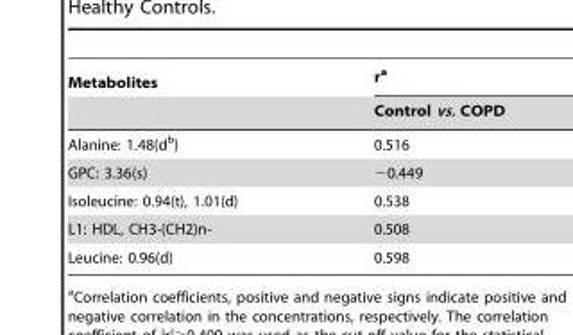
<table><thead><tr><td rowspan="2">Metabolites</td><td rowspan="2">r<sup>a</sup> Control vs. COPD</td></tr><tr></tr></thead><tbody><tr><td>Alanine: 1.48(d<sup>b</sup>)</td><td>0.516</td></tr><tr><td>GPC: 3.36(s)</td><td>−0.449</td></tr><tr><td>Isoleucine: 0.94(t), 1.01(d)</td><td>0.538</td></tr><tr><td>L1: HDL, CH3-(CH2)n-</td><td>0.508</td></tr><tr><td>Leucine: 0.96(d)</td><td>0.598</td></tr></tbody></table>